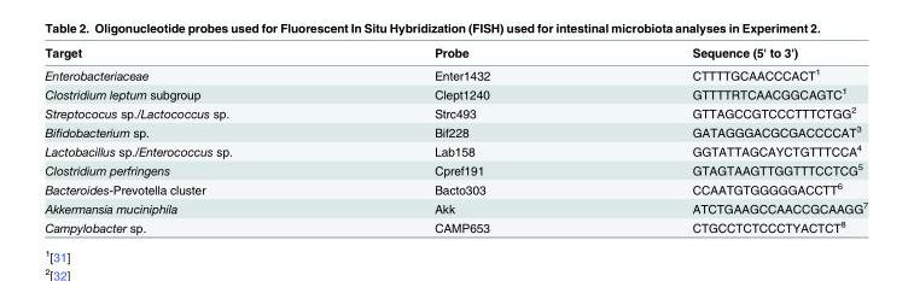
<table><thead><tr><td>Target</td><td>Probe</td><td>Sequence (5&#x27; to 3&#x27;)</td></tr></thead><tbody><tr><td>Enterobacteriaceae</td><td>Enter1432</td><td>CTTTTGCAACCCACT<sup>1</sup></td></tr><tr><td>Clostridium leptum subgroup</td><td>Clept1240</td><td>GTTTTRTCAACGGCAGTC<sup>1</sup></td></tr><tr><td>Streptococus sp./Lactococcus sp.</td><td>Strc493</td><td>GTTAGCCGTCCCTTTCTGG<sup>2</sup></td></tr><tr><td>Bifidobacterium sp.</td><td>Bif228</td><td>GATAGGGACGCGACCCCAT<sup>3</sup></td></tr><tr><td>Lactobacillus sp./Enterococcus sp.</td><td>Lab158</td><td>GGTATTAGCAYCTGTTTCCA<sup>4</sup></td></tr><tr><td>Clostridium perfringens</td><td>Cpref191</td><td>GTAGTAAGTTGGTTTCCTCG<sup>5</sup></td></tr><tr><td>Bacteroides-Prevotella cluster</td><td>Bacto303</td><td>CCAATGTGGGGGACCTT<sup>6</sup></td></tr><tr><td>Akkermansia muciniphila</td><td>Akk</td><td>ATCTGAAGCCAACCGCAAGG<sup>7</sup></td></tr><tr><td>Campylobacter sp.</td><td>CAMP653</td><td>CTGCCTCTCCCTYACTCT<sup>8</sup></td></tr></tbody></table>